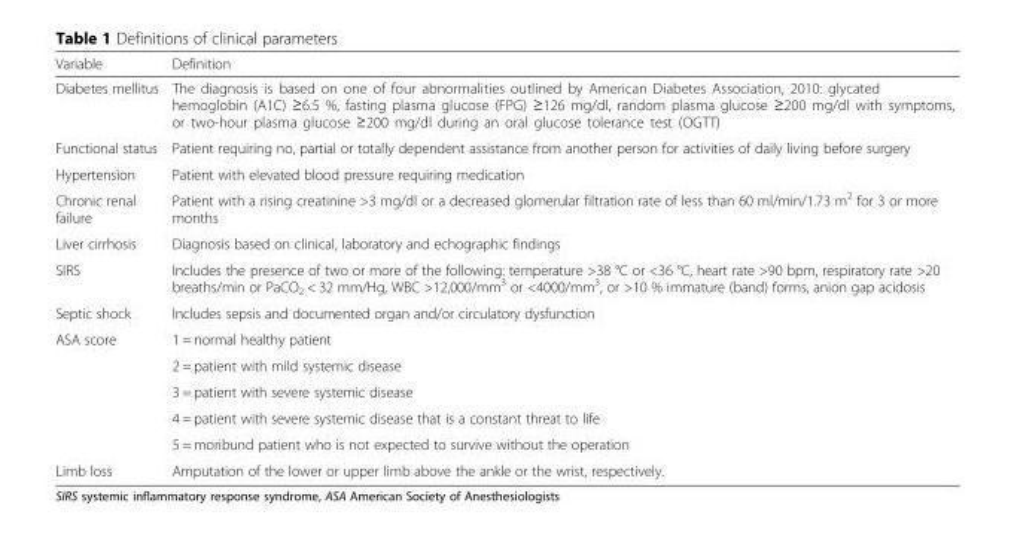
<table><thead><tr><td>Variable</td><td>Definition</td></tr></thead><tbody><tr><td>Diabetes mellitus</td><td>The diagnosis is based on one of four abnormalities outlined by American Diabetes Association, 2010: glycated hemoglobin (A1C) ≥6.5 %, fasting plasma glucose (FPG) ≥126 mg/dl, random plasma glucose ≥200 mg/dl with symptoms, or two-hour plasma glucose ≥200 mg/dl during an oral glucose tolerance test (OGTT)</td></tr><tr><td>Functional status</td><td>Patient requiring no, partial or totally dependent assistance from another person for activities of daily living before surgery</td></tr><tr><td>Hypertension</td><td>Patient with elevated blood pressure requiring medication</td></tr><tr><td>Chronic renal failure</td><td>Patient with a rising creatinine &gt;3 mg/dl or a decreased glomerular filtration rate of less than 60 ml/min/1.73 m<sup>2</sup> for 3 or more months</td></tr><tr><td>Liver cirrhosis</td><td>Diagnosis based on clinical, laboratory and echographic findings</td></tr><tr><td>SIRS</td><td>Includes the presence of two or more of the following: temperature &gt;38 °C or &lt;36 °C, heart rate &gt;90 bpm, respiratory rate &gt;20 breaths/min or PaCO<sub>2</sub> &lt; 32 mm/Hg, WBC &gt;12,000/mm<sup>3</sup> or &lt;4000/mm<sup>3</sup>, or &gt;10 % immature (band) forms, anion gap acidosis</td></tr><tr><td>Septic shock</td><td>Includes sepsis and documented organ and/or circulatory dysfunction</td></tr><tr><td rowspan="5">ASA score</td><td>1 = normal healthy patient</td></tr><tr><td>2 = patient with mild systemic disease</td></tr><tr><td>3 = patient with severe systemic disease</td></tr><tr><td>4 = patient with severe systemic disease that is a constant threat to life</td></tr><tr><td>5 = moribund patient who is not expected to survive without the operation</td></tr><tr><td>Limb loss</td><td>Amputation of the lower or upper limb above the ankle or the wrist, respectively.</td></tr></tbody></table>